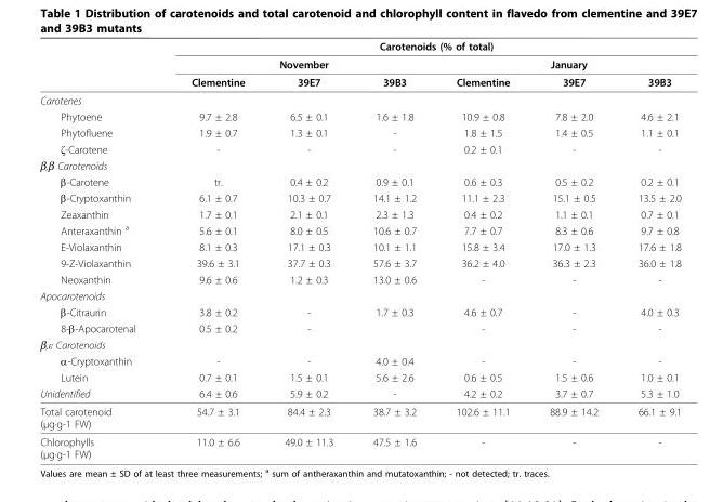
<table><thead><tr><td rowspan="3"></td><td colspan="6">Carotenoids (% of total)</td></tr><tr><td colspan="3">November</td><td colspan="3">January</td></tr><tr><td>Clementine</td><td>39E7</td><td>39B3</td><td>Clementine</td><td>39E7</td><td>39B3</td></tr></thead><tbody><tr><td colspan="7">Carotenes</td></tr><tr><td>Phytoene</td><td>9.7 ± 2.8</td><td>6.5 ± 0.1</td><td>1.6 ± 1.8</td><td>10.9 ± 0.8</td><td>7.8 ± 2.0</td><td>4.6 ± 2.1</td></tr><tr><td>Phytofluene</td><td>1.9 ± 0.7</td><td>1.3 ± 0.1</td><td>-</td><td>1.8 ± 1.5</td><td>1.4 ± 0.5</td><td>1.1 ± 0.1</td></tr><tr><td>ζ-Carotene</td><td>-</td><td>-</td><td>-</td><td>0.2 ± 0.1</td><td>-</td><td>-</td></tr><tr><td colspan="7">β,β Carotenoids</td></tr><tr><td>β-Carotene</td><td>tr.</td><td>0.4 ± 0.2</td><td>0.9 ± 0.1</td><td>0.6 ± 0.3</td><td>0.5 ± 0.2</td><td>0.2 ± 0.1</td></tr><tr><td>β-Cryptoxanthin</td><td>6.1 ± 0.7</td><td>10.3 ± 0.7</td><td>14.1 ± 1.2</td><td>11.1 ± 2.3</td><td>15.1 ± 0.5</td><td>13.5 ± 2.0</td></tr><tr><td>Zeaxanthin</td><td>1.7 ± 0.1</td><td>2.1 ± 0.1</td><td>2.3 ± 1.3</td><td>0.4 ± 0.2</td><td>1.1 ± 0.1</td><td>0.7 ± 0.1</td></tr><tr><td>Anteraxanthin <sup>a</sup></td><td>5.6 ± 0.1</td><td>8.0 ± 0.5</td><td>10.6 ± 0.7</td><td>7.7 ± 0.7</td><td>8.3 ± 0.6</td><td>9.7 ± 0.8</td></tr><tr><td>E-Violaxanthin</td><td>8.1 ± 0.3</td><td>17.1 ± 0.3</td><td>10.1 ± 1.1</td><td>15.8 ± 3.4</td><td>17.0 ± 1.3</td><td>17.6 ± 1.8</td></tr><tr><td>9-Z-Violaxanthin</td><td>39.6 ± 3.1</td><td>37.7 ± 0.3</td><td>57.6 ± 3.7</td><td>36.2 ± 4.0</td><td>36.3 ± 2.3</td><td>36.0 ± 1.8</td></tr><tr><td>Neoxanthin</td><td>9.6 ± 0.6</td><td>1.2 ± 0.3</td><td>13.0 ± 0.6</td><td>-</td><td>-</td><td>-</td></tr><tr><td colspan="7">Apocarotenoids</td></tr><tr><td>β-Citraurin</td><td>3.8 ± 0.2</td><td>-</td><td>1.7 ± 0.3</td><td>4.6 ± 0.7</td><td>-</td><td>4.0 ± 0.3</td></tr><tr><td>8-β-Apocarotenal</td><td>0.5 ± 0.2</td><td>-</td><td></td><td>-</td><td>-</td><td>-</td></tr><tr><td colspan="7">β,ε Carotenoids</td></tr><tr><td>α-Cryptoxanthin</td><td>-</td><td>-</td><td>4.0 ± 0.4</td><td>-</td><td>-</td><td>-</td></tr><tr><td>Lutein</td><td>0.7 ± 0.1</td><td>1.5 ± 0.1</td><td>5.6 ± 2.6</td><td>0.6 ± 0.5</td><td>1.5 ± 0.6</td><td>1.0 ± 0.1</td></tr><tr><td>Unidentified</td><td>6.4 ± 0.6</td><td>5.9 ± 0.2</td><td>-</td><td>4.2 ± 0.2</td><td>3.7 ± 0.7</td><td>5.3 ± 1.0</td></tr><tr><td>Total carotenoid (μg·g-1 FW)</td><td>54.7 ± 3.1</td><td>84.4 ± 2.3</td><td>38.7 ± 3.2</td><td>102.6 ± 11.1</td><td>88.9 ± 14.2</td><td>66.1 ± 9.1</td></tr><tr><td>Chlorophylls (μg·g-1 FW)</td><td>11.0 ± 6.6</td><td>49.0 ± 11.3</td><td>47.5 ± 1.6</td><td>-</td><td>-</td><td>-</td></tr></tbody></table>